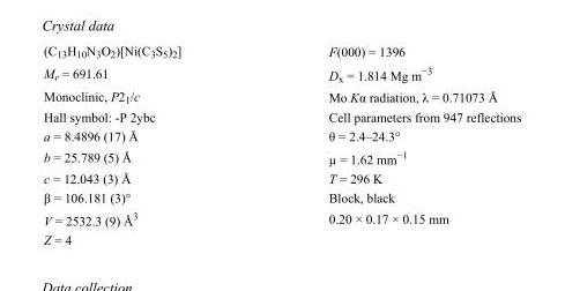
<table><tbody><tr><td>(C<sub>13</sub>H<sub>10</sub>N<sub>3</sub>O<sub>2</sub>)[Ni(C<sub>3</sub>S<sub>5</sub>)<sub>2</sub>]</td><td>F(000) = 1396</td></tr><tr><td>M<sub>r</sub> = 691.61</td><td>D<sub>x</sub> = 1.814 Mg m<sup>−3</sup></td></tr><tr><td>Monoclinic, P2<sub>1</sub>/c</td><td>Mo Kα radiation, λ = 0.71073 Å</td></tr><tr><td>Hall symbol: -P 2ybc</td><td>Cell parameters from 947 reflections</td></tr><tr><td>a = 8.4896 (17) Å</td><td>θ = 2.4–24.3°</td></tr><tr><td>b = 25.789 (5) Å</td><td>µ = 1.62 mm<sup>−1</sup></td></tr><tr><td>c = 12.043 (3) Å</td><td>T = 296 K</td></tr><tr><td>β = 106.181 (3)°</td><td>Block, black</td></tr><tr><td>V = 2532.3 (9) Å<sup>3</sup></td><td>0.20 × 0.17 × 0.15 mm</td></tr><tr><td>Z = 4</td><td></td></tr></tbody></table>